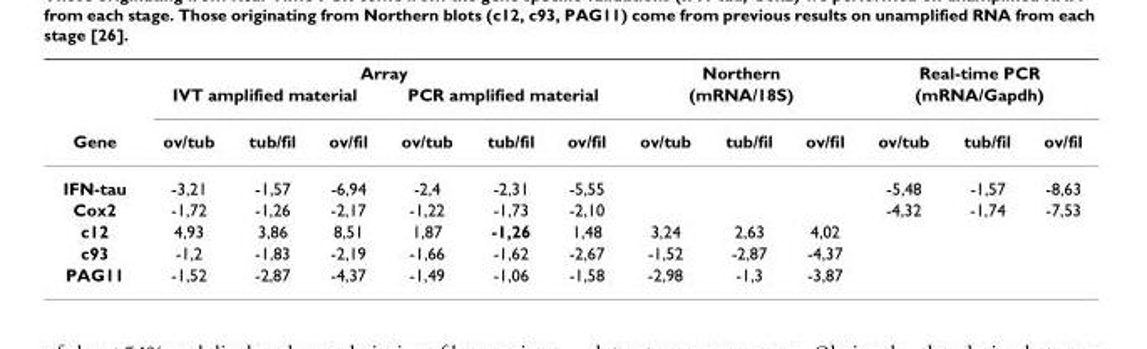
<table><thead><tr><td rowspan="3">Gene</td><td colspan="6">Array</td><td rowspan="2" colspan="3">Northern (mRNA/18S)</td><td rowspan="2" colspan="3">Real-time PCR (mRNA/Gapdh)</td></tr><tr><td colspan="3">IVT amplified material</td><td colspan="3">PCR amplified material</td></tr><tr><td>ov/tub</td><td>tub/fil</td><td>ov/fil</td><td>ov/tub</td><td>tub/fil</td><td>ov/fil</td><td>ov/tub</td><td>tub/fil</td><td>ov/fil</td><td>ov/tub</td><td>tub/fil</td><td>ov/fil</td></tr></thead><tbody><tr><td>IFN-tau</td><td>-3,21</td><td>-1,57</td><td>-6,94</td><td>-2,4</td><td>-2,31</td><td>-5,55</td><td></td><td></td><td></td><td>-5,48</td><td>-1,57</td><td>-8,63</td></tr><tr><td>Cox2</td><td>-1,72</td><td>-1,26</td><td>-2,17</td><td>-1,22</td><td>-1,73</td><td>-2,10</td><td></td><td></td><td></td><td>-4,32</td><td>-1,74</td><td>-7,53</td></tr><tr><td>c12</td><td>4,93</td><td>3,86</td><td>8,51</td><td>1,87</td><td>-1,26</td><td>1,48</td><td>3,24</td><td>2,63</td><td>4,02</td><td></td><td></td><td></td></tr><tr><td>c93</td><td>-1,2</td><td>-1,83</td><td>-2,19</td><td>-1,66</td><td>-1,62</td><td>-2,67</td><td>-1,52</td><td>-2,87</td><td>-4,37</td><td></td><td></td><td></td></tr><tr><td>PAG11</td><td>-1,52</td><td>-2,87</td><td>-4,37</td><td>-1,49</td><td>-1,06</td><td>-1,58</td><td>-2,98</td><td>-1,3</td><td>-3,87</td><td></td><td></td><td></td></tr></tbody></table>